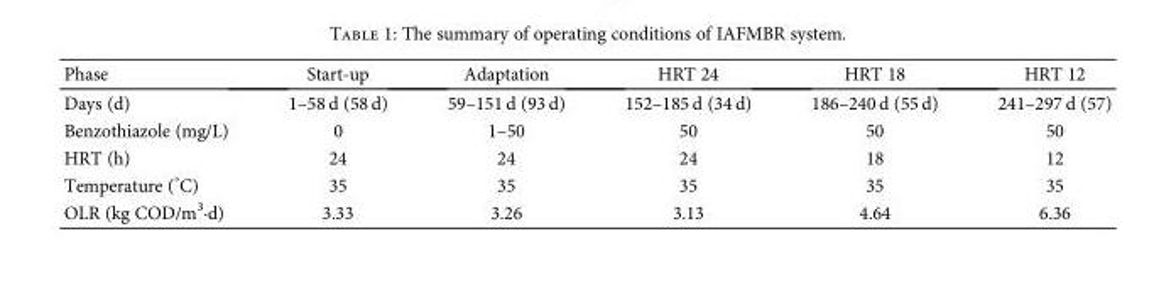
<table><thead><tr><td>Phase</td><td>Start-up</td><td>Adaptation</td><td>HRT 24</td><td>HRT 18</td><td>HRT 12</td></tr></thead><tbody><tr><td>Days (d)</td><td>1–58 d (58 d)</td><td>59–151 d (93 d)</td><td>152–185 d (34 d)</td><td>186–240 d (55 d)</td><td>241–297 d (57)</td></tr><tr><td>Benzothiazole (mg/L)</td><td>0</td><td>1–50</td><td>50</td><td>50</td><td>50</td></tr><tr><td>HRT (h)</td><td>24</td><td>24</td><td>24</td><td>18</td><td>12</td></tr><tr><td>Temperature (°C)</td><td>35</td><td>35</td><td>35</td><td>35</td><td>35</td></tr><tr><td>OLR (kg COD/m<sup>3</sup>·d)</td><td>3.33</td><td>3.26</td><td>3.13</td><td>4.64</td><td>6.36</td></tr></tbody></table>